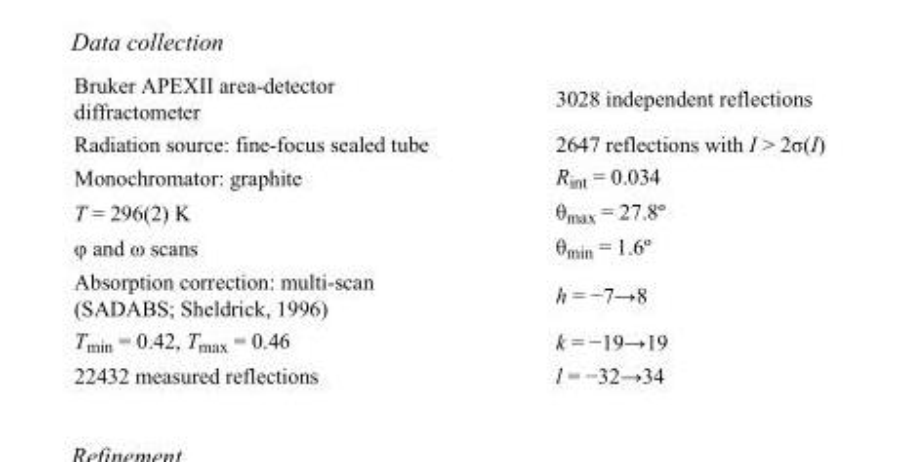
<table><tbody><tr><td>Bruker APEXII area-detector diffractometer</td><td>3028 independent reflections</td></tr><tr><td>Radiation source: fine-focus sealed tube</td><td>2647 reflections with I &gt; 2σ(I)</td></tr><tr><td>Monochromator: graphite</td><td>R<sub>int</sub> = 0.034</td></tr><tr><td>T = 296(2) K</td><td>θ<sub>max</sub> = 27.8º</td></tr><tr><td>φ and ω scans</td><td>θ<sub>min</sub> = 1.6º</td></tr><tr><td>Absorption correction: multi-scan (SADABS; Sheldrick, 1996)</td><td>h = −7→8</td></tr><tr><td>T<sub>min</sub> = 0.42, T<sub>max</sub> = 0.46</td><td>k = −19→19</td></tr><tr><td>22432 measured reflections</td><td>l = −32→34</td></tr></tbody></table>